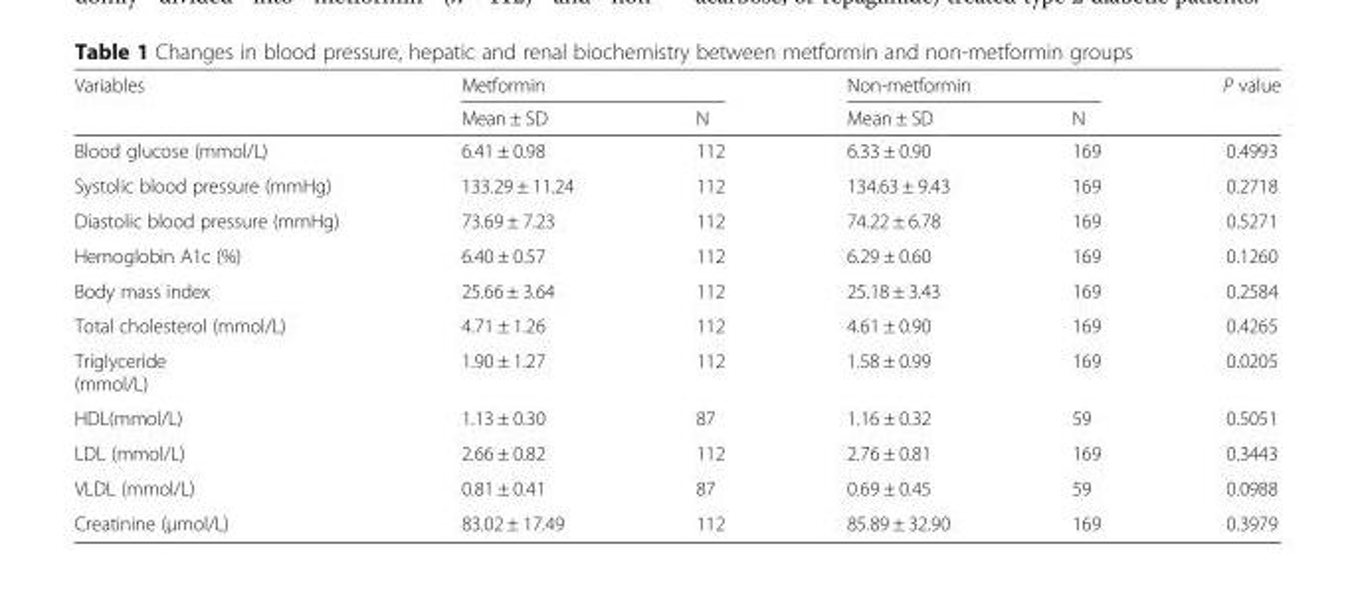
<table><thead><tr><td rowspan="2">Variables</td><td colspan="2">Metformin</td><td colspan="2">Non-metformin</td><td rowspan="2">P value</td></tr><tr><td>Mean ± SD</td><td>N</td><td>Mean ± SD</td><td>N</td></tr></thead><tbody><tr><td>Blood glucose (mmol/L)</td><td>6.41 ± 0.98</td><td>112</td><td>6.33 ± 0.90</td><td>169</td><td>0.4993</td></tr><tr><td>Systolic blood pressure (mmHg)</td><td>133.29 ± 11.24</td><td>112</td><td>134.63 ± 9.43</td><td>169</td><td>0.2718</td></tr><tr><td>Diastolic blood pressure (mmHg)</td><td>73.69 ± 7.23</td><td>112</td><td>74.22 ± 6.78</td><td>169</td><td>0.5271</td></tr><tr><td>Hemoglobin A1c (%)</td><td>6.40 ± 0.57</td><td>112</td><td>6.29 ± 0.60</td><td>169</td><td>0.1260</td></tr><tr><td>Body mass index</td><td>25.66 ± 3.64</td><td>112</td><td>25.18 ± 3.43</td><td>169</td><td>0.2584</td></tr><tr><td>Total cholesterol (mmol/L)</td><td>4.71 ± 1.26</td><td>112</td><td>4.61 ± 0.90</td><td>169</td><td>0.4265</td></tr><tr><td>Triglyceride (mmol/L)</td><td>1.90 ± 1.27</td><td>112</td><td>1.58 ± 0.99</td><td>169</td><td>0.0205</td></tr><tr><td>HDL(mmol/L)</td><td>1.13 ± 0.30</td><td>87</td><td>1.16 ± 0.32</td><td>59</td><td>0.5051</td></tr><tr><td>LDL (mmol/L)</td><td>2.66 ± 0.82</td><td>112</td><td>2.76 ± 0.81</td><td>169</td><td>0.3443</td></tr><tr><td>VLDL (mmol/L)</td><td>0.81 ± 0.41</td><td>87</td><td>0.69 ± 0.45</td><td>59</td><td>0.0988</td></tr><tr><td>Creatinine (μmol/L)</td><td>83.02 ± 17.49</td><td>112</td><td>85.89 ± 32.90</td><td>169</td><td>0.3979</td></tr></tbody></table>